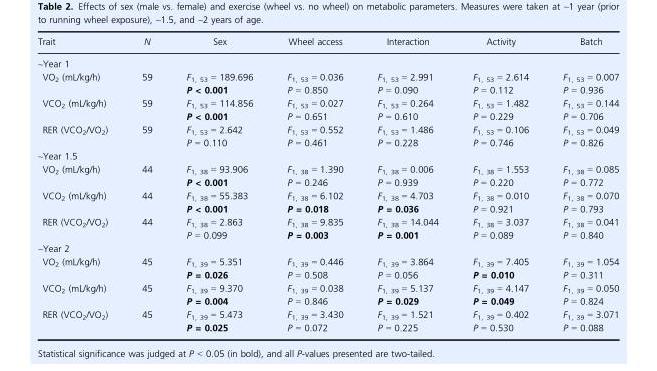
<table><thead><tr><td>Trait</td><td>N</td><td>Sex</td><td>Wheel access</td><td>Interaction</td><td>Activity</td><td>Batch</td></tr></thead><tbody><tr><td colspan="7">~Year 1</td></tr><tr><td>VO<sub>2</sub> (mL/kg/h)</td><td>59</td><td>F<sub>1, 53</sub> = 189.696 P &lt; 0.001</td><td>F<sub>1, 53</sub> = 0.036 P = 0.850</td><td>F<sub>1, 53</sub> = 2.991 P = 0.090</td><td>F<sub>1, 53</sub> = 2.614 P = 0.112</td><td>F<sub>1, 53</sub> = 0.007 P = 0.936</td></tr><tr><td>VCO<sub>2</sub> (mL/kg/h)</td><td>59</td><td>F<sub>1, 53</sub> = 114.856 P &lt; 0.001</td><td>F<sub>1, 53</sub> = 0.027 P = 0.651</td><td>F<sub>1, 53</sub> = 0.264 P = 0.610</td><td>F<sub>1, 53</sub> = 1.482 P = 0.229</td><td>F<sub>1, 53</sub> = 0.144 P = 0.706</td></tr><tr><td>RER (VCO<sub>2</sub>/VO<sub>2</sub>)</td><td>59</td><td>F<sub>1, 53</sub> = 2.642 P = 0.110</td><td>F<sub>1, 53</sub> = 0.552 P = 0.461</td><td>F<sub>1, 53</sub> = 1.486 P = 0.228</td><td>F<sub>1, 53</sub> = 0.106 P = 0.746</td><td>F<sub>1, 53</sub> = 0.049 P = 0.826</td></tr><tr><td colspan="7">~Year 1.5</td></tr><tr><td>VO<sub>2</sub> (mL/kg/h)</td><td>44</td><td>F<sub>1, 38</sub> = 93.906 P &lt; 0.001</td><td>F<sub>1, 38</sub> = 1.390 P = 0.246</td><td>F<sub>1, 38</sub> = 0.006 P = 0.939</td><td>F<sub>1, 38</sub> = 1.553 P = 0.220</td><td>F<sub>1, 38</sub> = 0.085 P = 0.772</td></tr><tr><td>VCO<sub>2</sub> (mL/kg/h)</td><td>44</td><td>F<sub>1, 38</sub> = 55.383 P &lt; 0.001</td><td>F<sub>1, 38</sub> = 6.102 P = 0.018</td><td>F<sub>1, 38</sub> = 4.703 P = 0.036</td><td>F<sub>1, 38</sub> = 0.010 P = 0.921</td><td>F<sub>1, 38</sub> = 0.070 P = 0.793</td></tr><tr><td>RER (VCO<sub>2</sub>/VO<sub>2</sub>)</td><td>44</td><td>F<sub>1, 38</sub> = 2.863 P = 0.099</td><td>F<sub>1, 38</sub> = 9.835 P = 0.003</td><td>F<sub>1, 38</sub> = 14.044 P = 0.001</td><td>F<sub>1, 38</sub> = 3.037 P = 0.089</td><td>F<sub>1, 38</sub> = 0.041 P = 0.840</td></tr><tr><td colspan="7">~Year 2</td></tr><tr><td>VO<sub>2</sub> (mL/kg/h)</td><td>45</td><td>F<sub>1, 39</sub> = 5.351 P = 0.026</td><td>F<sub>1, 39</sub> = 0.446 P = 0.508</td><td>F<sub>1, 39</sub> = 3.864 P = 0.056</td><td>F<sub>1, 39</sub> = 7.405 P = 0.010</td><td>F<sub>1, 39</sub> = 1.054 P = 0.311</td></tr><tr><td>VCO<sub>2</sub> (mL/kg/h)</td><td>45</td><td>F<sub>1, 39</sub> = 9.370 P = 0.004</td><td>F<sub>1, 39</sub> = 0.038 P = 0.846</td><td>F<sub>1, 39</sub> = 5.137 P = 0.029</td><td>F<sub>1, 39</sub> = 4.147 P = 0.049</td><td>F<sub>1, 39</sub> = 0.050 P = 0.824</td></tr><tr><td>RER (VCO<sub>2</sub>/VO<sub>2</sub>)</td><td>45</td><td>F<sub>1, 39</sub> = 5.473 P = 0.025</td><td>F<sub>1, 39</sub> = 3.430 P = 0.072</td><td>F<sub>1, 39</sub> = 1.521 P = 0.225</td><td>F<sub>1, 39</sub> = 0.402 P = 0.530</td><td>F<sub>1, 39</sub> = 3.071 P = 0.088</td></tr></tbody></table>